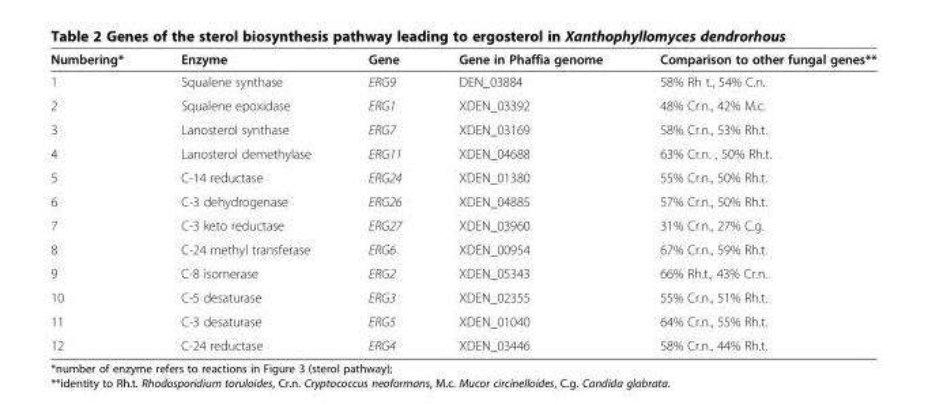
<table><thead><tr><td>Numbering*</td><td>Enzyme</td><td>Gene</td><td>Gene in Phaffia genome</td><td>Comparison to other fungal genes**</td></tr></thead><tbody><tr><td>1</td><td>Squalene synthase</td><td>ERG9</td><td>DEN_03884</td><td>58% Rh t., 54% C.n.</td></tr><tr><td>2</td><td>Squalene epoxidase</td><td>ERG1</td><td>XDEN_03392</td><td>48% Cr.n., 42% M.c.</td></tr><tr><td>3</td><td>Lanosterol synthase</td><td>ERG7</td><td>XDEN_03169</td><td>58% Cr.n., 53% Rh.t.</td></tr><tr><td>4</td><td>Lanosterol demethylase</td><td>ERG11</td><td>XDEN_04688</td><td>63% Cr.n. , 50% Rh.t.</td></tr><tr><td>5</td><td>C-14 reductase</td><td>ERG24</td><td>XDEN_01380</td><td>55% Cr.n., 50% Rh.t.</td></tr><tr><td>6</td><td>C-3 dehydrogenase</td><td>ERG26</td><td>XDEN_04885</td><td>57% Cr.n., 50% Rh.t.</td></tr><tr><td>7</td><td>C-3 keto reductase</td><td>ERG27</td><td>XDEN_03960</td><td>31% Cr.n., 27% C.g.</td></tr><tr><td>8</td><td>C-24 methyl transferase</td><td>ERG6</td><td>XDEN_00954</td><td>67% Cr.n., 59% Rh.t.</td></tr><tr><td>9</td><td>C-8 isomerase</td><td>ERG2</td><td>XDEN_05343</td><td>66% Rh.t., 43% Cr.n.</td></tr><tr><td>10</td><td>C-5 desaturase</td><td>ERG3</td><td>XDEN_02355</td><td>55% Cr.n., 51% Rh.t.</td></tr><tr><td>11</td><td>C-3 desaturase</td><td>ERG5</td><td>XDEN_01040</td><td>64% Cr.n., 55% Rh.t.</td></tr><tr><td>12</td><td>C-24 reductase</td><td>ERG4</td><td>XDEN_03446</td><td>58% Cr.n., 44% Rh.t.</td></tr></tbody></table>